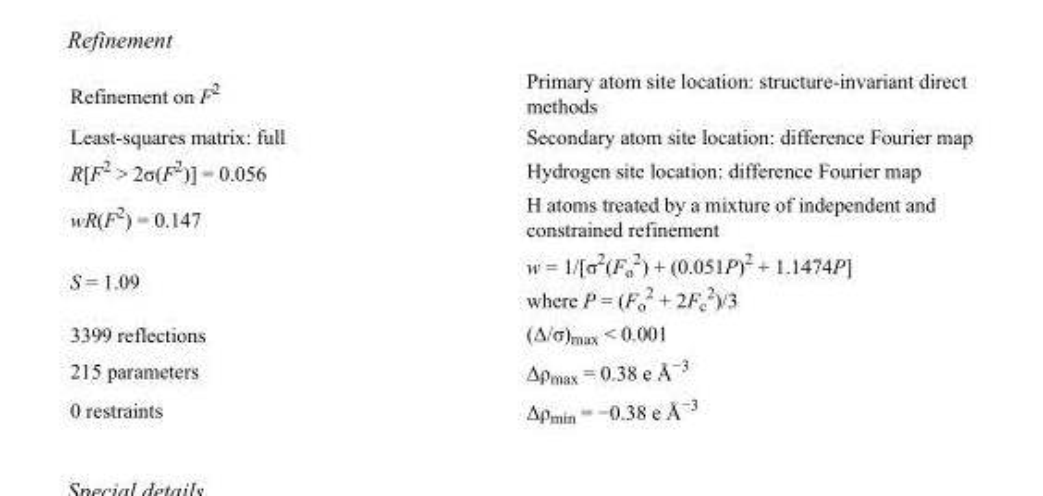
<table><tbody><tr><td>Refinement on F<sup>2</sup></td><td>Primary atom site location: structure-invariant direct methods</td></tr><tr><td>Least-squares matrix: full</td><td>Secondary atom site location: difference Fourier map</td></tr><tr><td>R[F<sup>2</sup> &gt; 2σ(F<sup>2</sup>)] = 0.056</td><td>Hydrogen site location: difference Fourier map</td></tr><tr><td>wR(F<sup>2</sup>) = 0.147</td><td>H atoms treated by a mixture of independent and constrained refinement</td></tr><tr><td>S = 1.09</td><td>w = 1/[σ<sup>2</sup>(F<sub>o</sub> <sup>2</sup>) + (0.051P)<sup>2</sup> + 1.1474P] where P = (F<sub>o</sub> <sup>2</sup> + 2F<sub>c</sub> <sup>2</sup>)/3</td></tr><tr><td>3399 reflections</td><td>(Δ/σ)<sub>max</sub> &lt; 0.001</td></tr><tr><td>215 parameters</td><td>Δρ<sub>max</sub> = 0.38 e Å<sup>−3</sup></td></tr><tr><td>0 restraints</td><td>Δρ<sub>min</sub> = −0.38 e Å<sup>−3</sup></td></tr></tbody></table>